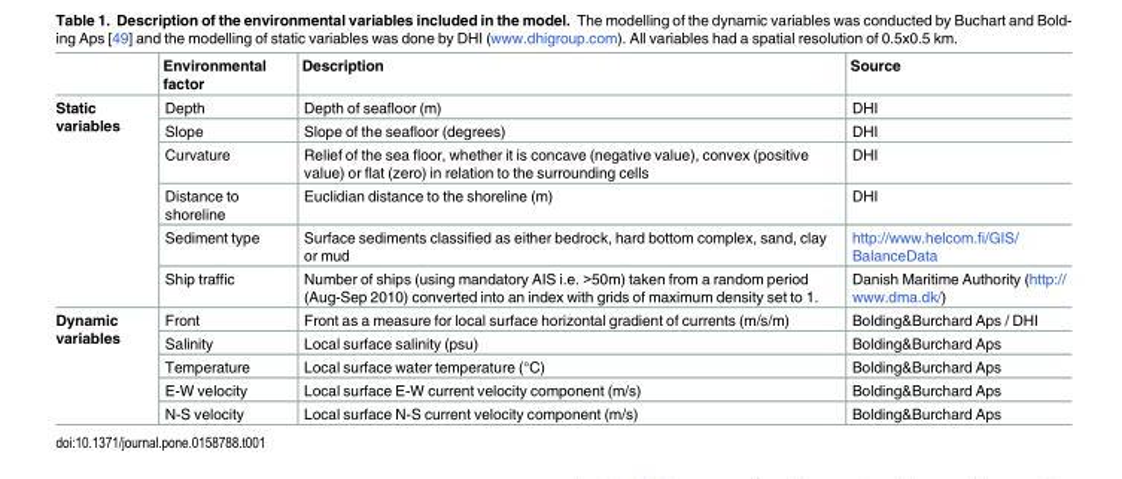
<table><thead><tr><td></td><td>Environmental factor</td><td>Description</td><td>Source</td></tr></thead><tbody><tr><td rowspan="6">Static variables</td><td>Depth</td><td>Depth of seafloor (m)</td><td>DHI</td></tr><tr><td>Slope</td><td>Slope of the seafloor (degrees)</td><td>DHI</td></tr><tr><td>Curvature</td><td>Relief of the sea floor, whether it is concave (negative value), convex (positive value) or flat (zero) in relation to the surrounding cells</td><td>DHI</td></tr><tr><td>Distance to shoreline</td><td>Euclidian distance to the shoreline (m)</td><td>DHI</td></tr><tr><td>Sediment type</td><td>Surface sediments classified as either bedrock, hard bottom complex, sand, clay or mud</td><td>http://www.helcom.fi/GIS/ BalanceData</td></tr><tr><td>Ship traffic</td><td>Number of ships (using mandatory AIS i.e. &gt;50m) taken from a random period (Aug-Sep 2010) converted into an index with grids of maximum density set to 1.</td><td>Danish Maritime Authority (http:// www.dma.dk/)</td></tr><tr><td rowspan="5">Dynamic variables</td><td>Front</td><td>Front as a measure for local surface horizontal gradient of currents (m/s/m)</td><td>Bolding&amp;Burchard Aps / DHI</td></tr><tr><td>Salinity</td><td>Local surface salinity (psu)</td><td>Bolding&amp;Burchard Aps</td></tr><tr><td>Temperature</td><td>Local surface water temperature (°C)</td><td>Bolding&amp;Burchard Aps</td></tr><tr><td>E-W velocity</td><td>Local surface E-W current velocity component (m/s)</td><td>Bolding&amp;Burchard Aps</td></tr><tr><td>N-S velocity</td><td>Local surface N-S current velocity component (m/s)</td><td>Bolding&amp;Burchard Aps</td></tr></tbody></table>